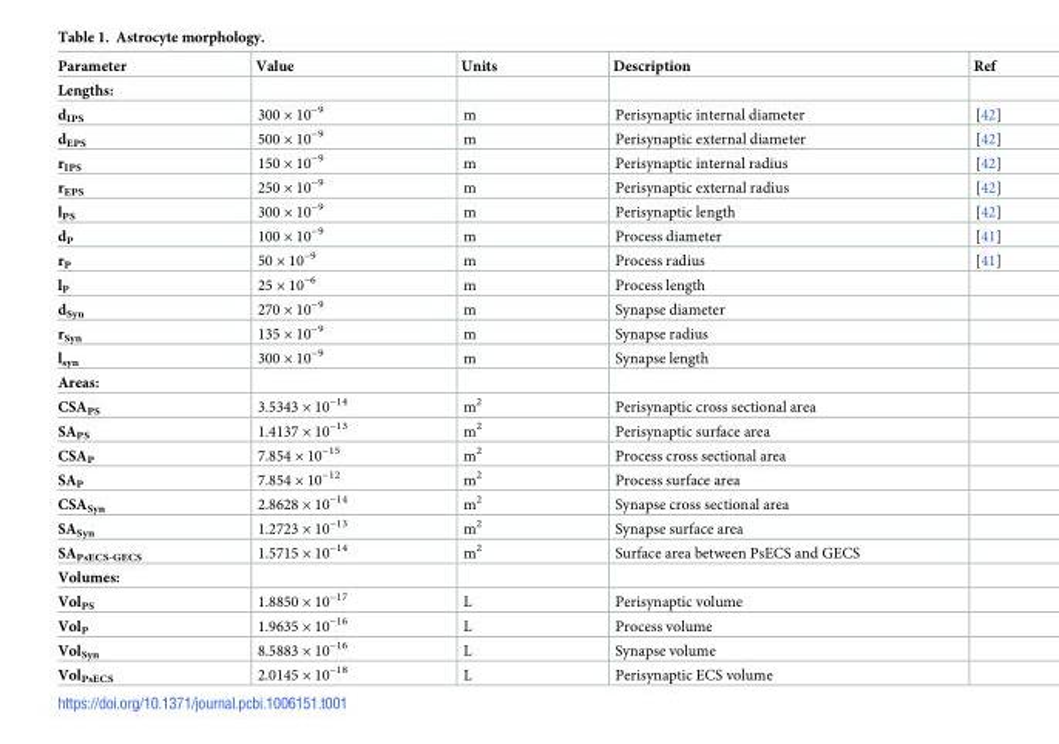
<table><thead><tr><td>Parameter</td><td>Value</td><td>Units</td><td>Description</td><td>Ref</td></tr></thead><tbody><tr><td colspan="5">Lengths:</td></tr><tr><td>d<sub>IPS</sub></td><td>300 × 10<sup>−9</sup></td><td>m</td><td>Perisynaptic internal diameter</td><td>[42]</td></tr><tr><td>d<sub>EPS</sub></td><td>500 × 10<sup>−9</sup></td><td>m</td><td>Perisynaptic external diameter</td><td>[42]</td></tr><tr><td>r<sub>IPS</sub></td><td>150 × 10<sup>−9</sup></td><td>m</td><td>Perisynaptic internal radius</td><td>[42]</td></tr><tr><td>r<sub>EPS</sub></td><td>250 × 10<sup>−9</sup></td><td>m</td><td>Perisynaptic external radius</td><td>[42]</td></tr><tr><td>l<sub>PS</sub></td><td>300 × 10<sup>−9</sup></td><td>m</td><td>Perisynaptic length</td><td>[42]</td></tr><tr><td>d<sub>P</sub></td><td>100 × 10<sup>−9</sup></td><td>m</td><td>Process diameter</td><td>[41]</td></tr><tr><td>r<sub>P</sub></td><td>50 × 10<sup>−9</sup></td><td>m</td><td>Process radius</td><td>[41]</td></tr><tr><td>l<sub>P</sub></td><td>25 × 10<sup>−6</sup></td><td>m</td><td>Process length</td><td></td></tr><tr><td>d<sub>Syn</sub></td><td>270 × 10<sup>−9</sup></td><td>m</td><td>Synapse diameter</td><td></td></tr><tr><td>r<sub>Syn</sub></td><td>135 × 10<sup>−9</sup></td><td>m</td><td>Synapse radius</td><td></td></tr><tr><td>l<sub>syn</sub></td><td>300 × 10<sup>−9</sup></td><td>m</td><td>Synapse length</td><td></td></tr><tr><td colspan="5">Areas:</td></tr><tr><td>CSA<sub>PS</sub></td><td>3.5343 × 10<sup>−14</sup></td><td>m<sup>2</sup></td><td>Perisynaptic cross sectional area</td><td></td></tr><tr><td>SA<sub>PS</sub></td><td>1.4137 × 10<sup>−13</sup></td><td>m<sup>2</sup></td><td>Perisynaptic surface area</td><td></td></tr><tr><td>CSA<sub>P</sub></td><td>7.854 × 10<sup>−15</sup></td><td>m<sup>2</sup></td><td>Process cross sectional area</td><td></td></tr><tr><td>SA<sub>P</sub></td><td>7.854 × 10<sup>−12</sup></td><td>m<sup>2</sup></td><td>Process surface area</td><td></td></tr><tr><td>CSA<sub>Syn</sub></td><td>2.8628 × 10<sup>−14</sup></td><td>m<sup>2</sup></td><td>Synapse cross sectional area</td><td></td></tr><tr><td>SA<sub>Syn</sub></td><td>1.2723 × 10<sup>−13</sup></td><td>m<sup>2</sup></td><td>Synapse surface area</td><td></td></tr><tr><td>SA<sub>PsECS-GECS</sub></td><td>1.5715 × 10<sup>−14</sup></td><td>m<sup>2</sup></td><td>Surface area between PsECS and GECS</td><td></td></tr><tr><td colspan="5">Volumes:</td></tr><tr><td>Vol<sub>PS</sub></td><td>1.8850 × 10<sup>−17</sup></td><td>L</td><td>Perisynaptic volume</td><td></td></tr><tr><td>Vol<sub>P</sub></td><td>1.9635 × 10<sup>−16</sup></td><td>L</td><td>Process volume</td><td></td></tr><tr><td>Vol<sub>Syn</sub></td><td>8.5883 × 10<sup>−16</sup></td><td>L</td><td>Synapse volume</td><td></td></tr><tr><td>Vol<sub>PsECS</sub></td><td>2.0145 × 10<sup>−18</sup></td><td>L</td><td>Perisynaptic ECS volume</td><td></td></tr></tbody></table>